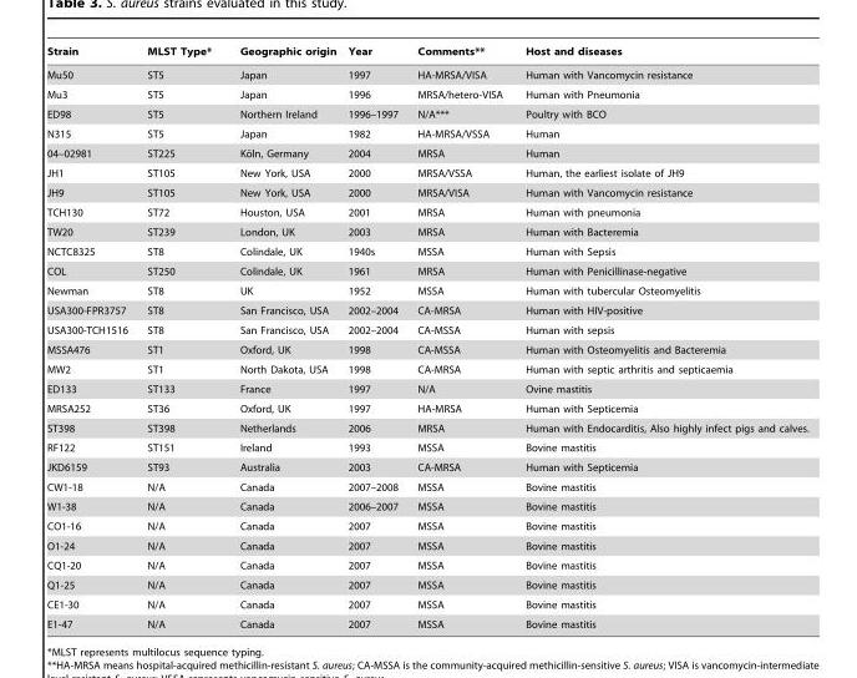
<table><thead><tr><td>Strain</td><td>MLST Type*</td><td>Geographic origin</td><td>Year</td><td>Comments**</td><td>Host and diseases</td></tr></thead><tbody><tr><td>Mu50</td><td>ST5</td><td>Japan</td><td>1997</td><td>HA-MRSA/VISA</td><td>Human with Vancomycin resistance</td></tr><tr><td>Mu3</td><td>ST5</td><td>Japan</td><td>1996</td><td>MRSA/hetero-VISA</td><td>Human with Pneumonia</td></tr><tr><td>ED98</td><td>ST5</td><td>Northern Ireland</td><td>1996–1997</td><td>N/A***</td><td>Poultry with BCO</td></tr><tr><td>N315</td><td>ST5</td><td>Japan</td><td>1982</td><td>HA-MRSA/VSSA</td><td>Human</td></tr><tr><td>04–02981</td><td>ST225</td><td>Ko¨ln, Germany</td><td>2004</td><td>MRSA</td><td>Human</td></tr><tr><td>JH1</td><td>ST105</td><td>New York, USA</td><td>2000</td><td>MRSA/VSSA</td><td>Human, the earliest isolate of JH9</td></tr><tr><td>JH9</td><td>ST105</td><td>New York, USA</td><td>2000</td><td>MRSA/VISA</td><td>Human with Vancomycin resistance</td></tr><tr><td>TCH130</td><td>ST72</td><td>Houston, USA</td><td>2001</td><td>MRSA</td><td>Human with pneumonia</td></tr><tr><td>TW20</td><td>ST239</td><td>London, UK</td><td>2003</td><td>MRSA</td><td>Human with Bacteremia</td></tr><tr><td>NCTC8325</td><td>ST8</td><td>Colindale, UK</td><td>1940s</td><td>MSSA</td><td>Human with Sepsis</td></tr><tr><td>COL</td><td>ST250</td><td>Colindale, UK</td><td>1961</td><td>MRSA</td><td>Human with Penicillinase-negative</td></tr><tr><td>Newman</td><td>ST8</td><td>UK</td><td>1952</td><td>MSSA</td><td>Human with tubercular Osteomyelitis</td></tr><tr><td>USA300-FPR3757</td><td>ST8</td><td>San Francisco, USA</td><td>2002–2004</td><td>CA-MRSA</td><td>Human with HIV-positive</td></tr><tr><td>USA300-TCH1516</td><td>ST8</td><td>San Francisco, USA</td><td>2002–2004</td><td>CA-MSSA</td><td>Human with sepsis</td></tr><tr><td>MSSA476</td><td>ST1</td><td>Oxford, UK</td><td>1998</td><td>CA-MSSA</td><td>Human with Osteomyelitis and Bacteremia</td></tr><tr><td>MW2</td><td>ST1</td><td>North Dakota, USA</td><td>1998</td><td>CA-MRSA</td><td>Human with septic arthritis and septicaemia</td></tr><tr><td>ED133</td><td>ST133</td><td>France</td><td>1997</td><td>N/A</td><td>Ovine mastitis</td></tr><tr><td>MRSA252</td><td>ST36</td><td>Oxford, UK</td><td>1997</td><td>HA-MRSA</td><td>Human with Septicemia</td></tr><tr><td>ST398</td><td>ST398</td><td>Netherlands</td><td>2006</td><td>MRSA</td><td>Human with Endocarditis, Also highly infect pigs and calves.</td></tr><tr><td>RF122</td><td>ST151</td><td>Ireland</td><td>1993</td><td>MSSA</td><td>Bovine mastitis</td></tr><tr><td>JKD6159</td><td>ST93</td><td>Australia</td><td>2003</td><td>CA-MRSA</td><td>Human with Septicemia</td></tr><tr><td>CW1-18</td><td>N/A</td><td>Canada</td><td>2007–2008</td><td>MSSA</td><td>Bovine mastitis</td></tr><tr><td>W1-38</td><td>N/A</td><td>Canada</td><td>2006–2007</td><td>MSSA</td><td>Bovine mastitis</td></tr><tr><td>CO1-16</td><td>N/A</td><td>Canada</td><td>2007</td><td>MSSA</td><td>Bovine mastitis</td></tr><tr><td>O1-24</td><td>N/A</td><td>Canada</td><td>2007</td><td>MSSA</td><td>Bovine mastitis</td></tr><tr><td>CQ1-20</td><td>N/A</td><td>Canada</td><td>2007</td><td>MSSA</td><td>Bovine mastitis</td></tr><tr><td>Q1-25</td><td>N/A</td><td>Canada</td><td>2007</td><td>MSSA</td><td>Bovine mastitis</td></tr><tr><td>CE1-30</td><td>N/A</td><td>Canada</td><td>2007</td><td>MSSA</td><td>Bovine mastitis</td></tr><tr><td>E1-47</td><td>N/A</td><td>Canada</td><td>2007</td><td>MSSA</td><td>Bovine mastitis</td></tr></tbody></table>